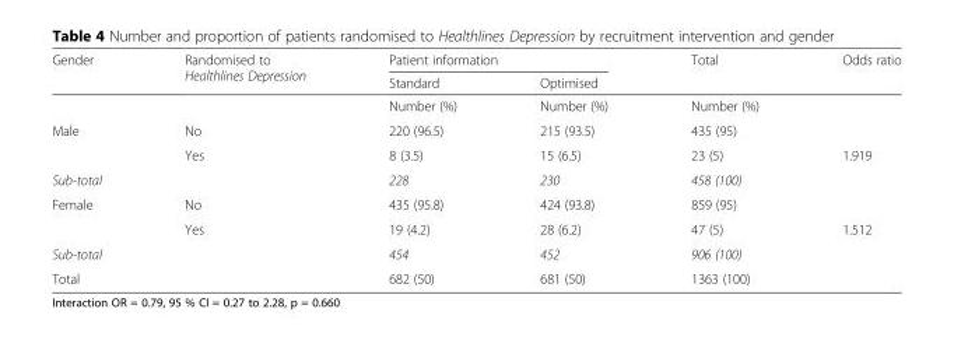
<table><thead><tr><td rowspan="2">Gender</td><td rowspan="2">Randomised to Healthlines Depression</td><td colspan="2">Patient information</td><td rowspan="2">Total</td><td rowspan="2">Odds ratio</td></tr><tr><td>Standard</td><td>Optimised</td></tr></thead><tbody><tr><td></td><td></td><td>Number (%)</td><td>Number (%)</td><td>Number (%)</td><td></td></tr><tr><td rowspan="2">Male</td><td>No</td><td>220 (96.5)</td><td>215 (93.5)</td><td>435 (95)</td><td></td></tr><tr><td>Yes</td><td>8 (3.5)</td><td>15 (6.5)</td><td>23 (5)</td><td>1.919</td></tr><tr><td>Sub-total</td><td></td><td>228</td><td>230</td><td>458 (100)</td><td></td></tr><tr><td rowspan="2">Female</td><td>No</td><td>435 (95.8)</td><td>424 (93.8)</td><td>859 (95)</td><td></td></tr><tr><td>Yes</td><td>19 (4.2)</td><td>28 (6.2)</td><td>47 (5)</td><td>1.512</td></tr><tr><td>Sub-total</td><td></td><td>454</td><td>452</td><td>906 (100)</td><td></td></tr><tr><td>Total</td><td></td><td>682 (50)</td><td>681 (50)</td><td>1363 (100)</td><td></td></tr></tbody></table>